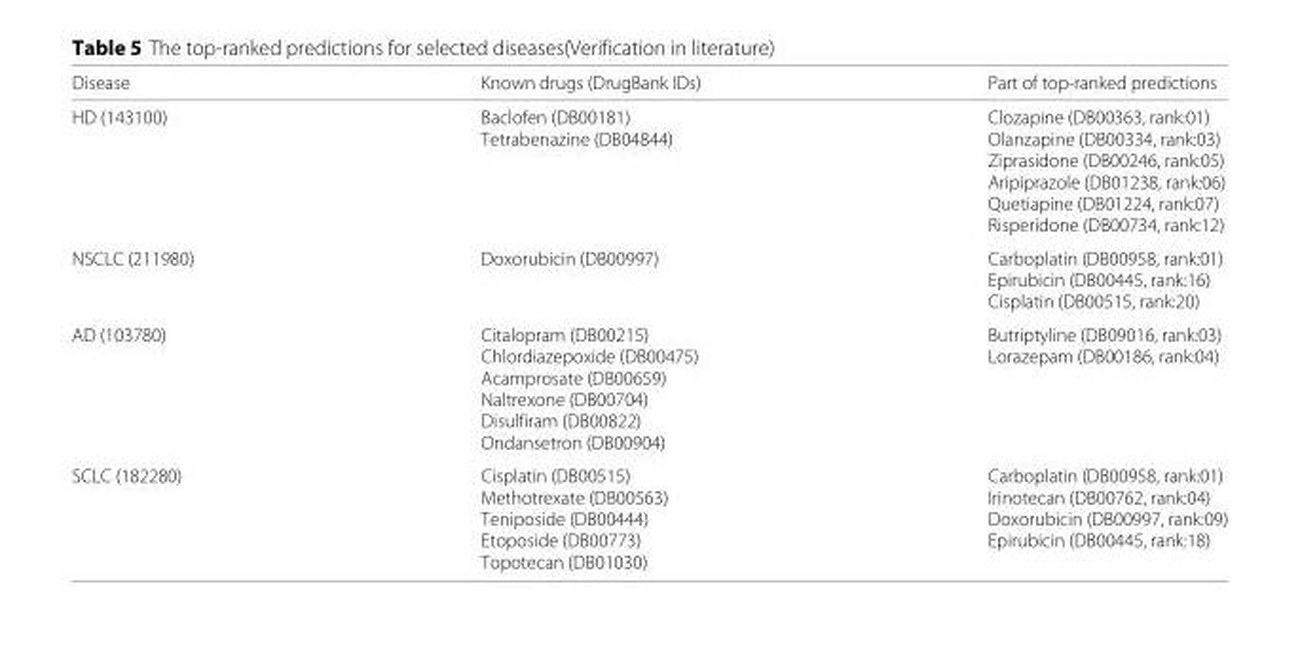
<table><thead><tr><td>Disease</td><td>Known drugs (DrugBank IDs)</td><td>Part of top-ranked predictions</td></tr></thead><tbody><tr><td rowspan="6">HD (143100)</td><td>Baclofen (DB00181)</td><td>Clozapine (DB00363, rank:01)</td></tr><tr><td>Tetrabenazine (DB04844)</td><td>Olanzapine (DB00334, rank:03)</td></tr><tr><td></td><td>Ziprasidone (DB00246, rank:05)</td></tr><tr><td></td><td>Aripiprazole (DB01238, rank:06)</td></tr><tr><td></td><td>Quetiapine (DB01224, rank:07)</td></tr><tr><td></td><td>Risperidone (DB00734, rank:12)</td></tr><tr><td rowspan="3">NSCLC (211980)</td><td>Doxorubicin (DB00997)</td><td>Carboplatin (DB00958, rank:01)</td></tr><tr><td></td><td>Epirubicin (DB00445, rank:16)</td></tr><tr><td></td><td>Cisplatin (DB00515, rank:20)</td></tr><tr><td rowspan="6">AD (103780)</td><td>Citalopram (DB00215)</td><td>Butriptyline (DB09016, rank:03)</td></tr><tr><td>Chlordiazepoxide (DB00475)</td><td>Lorazepam (DB00186, rank:04)</td></tr><tr><td>Acamprosate (DB00659)</td><td></td></tr><tr><td>Naltrexone (DB00704)</td><td></td></tr><tr><td>Disulfiram (DB00822)</td><td></td></tr><tr><td>Ondansetron (DB00904)</td><td></td></tr><tr><td rowspan="5">SCLC (182280)</td><td>Cisplatin (DB00515)</td><td>Carboplatin (DB00958, rank:01)</td></tr><tr><td>Methotrexate (DB00563)</td><td>Irinotecan (DB00762, rank:04)</td></tr><tr><td>Teniposide (DB00444)</td><td>Doxorubicin (DB00997, rank:09)</td></tr><tr><td>Etoposide (DB00773)</td><td>Epirubicin (DB00445, rank:18)</td></tr><tr><td>Topotecan (DB01030)</td><td></td></tr></tbody></table>